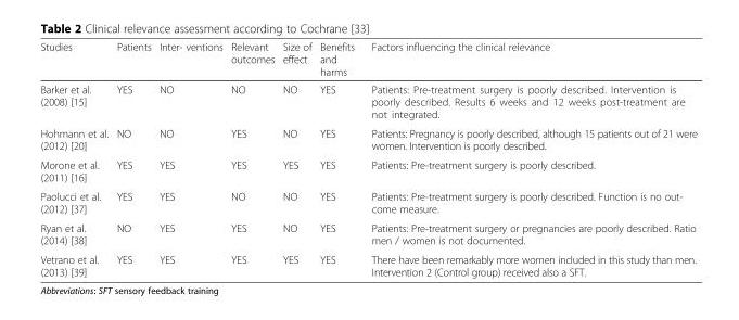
<table><thead><tr><td>Studies</td><td>Patients</td><td>Inter- ventions</td><td>Relevant outcomes</td><td>Size of effect</td><td>Benefits and harms</td><td>Factors influencing the clinical relevance</td></tr></thead><tbody><tr><td>Barker et al. (2008) [15]</td><td>YES</td><td>NO</td><td>NO</td><td>NO</td><td>YES</td><td>Patients: Pre-treatment surgery is poorly described. Intervention is poorly described. Results 6 weeks and 12 weeks post-treatment are not integrated.</td></tr><tr><td>Hohmann et al. (2012) [20]</td><td>NO</td><td>NO</td><td>YES</td><td>NO</td><td>YES</td><td>Patients: Pregnancy is poorly described, although 15 patients out of 21 were women. Intervention is poorly described.</td></tr><tr><td>Morone et al. (2011) [16]</td><td>YES</td><td>YES</td><td>YES</td><td>YES</td><td>YES</td><td>Patients: Pre-treatment surgery is poorly described.</td></tr><tr><td>Paolucci et al. (2012) [37]</td><td>YES</td><td>YES</td><td>NO</td><td>NO</td><td>YES</td><td>Patients: Pre-treatment surgery is poorly described. Function is no out- come measure.</td></tr><tr><td>Ryan et al. (2014) [38]</td><td>NO</td><td>YES</td><td>YES</td><td>NO</td><td>YES</td><td>Patients: Pre-treatment surgery or pregnancies are poorly described. Ratio men / women is not documented.</td></tr><tr><td>Vetrano et al. (2013) [39]</td><td>YES</td><td>YES</td><td>YES</td><td>YES</td><td>YES</td><td>There have been remarkably more women included in this study than men. Intervention 2 (Control group) received also a SFT.</td></tr></tbody></table>